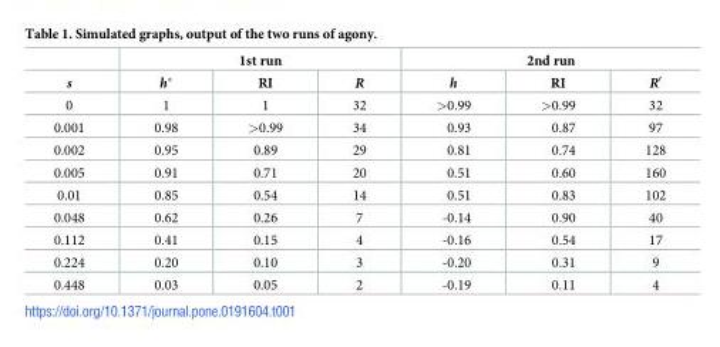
<table><thead><tr><td rowspan="2">s</td><td colspan="3">1st run</td><td colspan="3">2nd run</td></tr><tr><td>h*</td><td>RI</td><td>R</td><td>h</td><td>RI</td><td>R′</td></tr></thead><tbody><tr><td>0</td><td>1</td><td>1</td><td>32</td><td>&gt;0.99</td><td>&gt;0.99</td><td>32</td></tr><tr><td>0.001</td><td>0.98</td><td>&gt;0.99</td><td>34</td><td>0.93</td><td>0.87</td><td>97</td></tr><tr><td>0.002</td><td>0.95</td><td>0.89</td><td>29</td><td>0.81</td><td>0.74</td><td>128</td></tr><tr><td>0.005</td><td>0.91</td><td>0.71</td><td>20</td><td>0.51</td><td>0.60</td><td>160</td></tr><tr><td>0.01</td><td>0.85</td><td>0.54</td><td>14</td><td>0.51</td><td>0.83</td><td>102</td></tr><tr><td>0.048</td><td>0.62</td><td>0.26</td><td>7</td><td>-0.14</td><td>0.90</td><td>40</td></tr><tr><td>0.112</td><td>0.41</td><td>0.15</td><td>4</td><td>-0.16</td><td>0.54</td><td>17</td></tr><tr><td>0.224</td><td>0.20</td><td>0.10</td><td>3</td><td>-0.20</td><td>0.31</td><td>9</td></tr><tr><td>0.448</td><td>0.03</td><td>0.05</td><td>2</td><td>-0.19</td><td>0.11</td><td>4</td></tr></tbody></table>